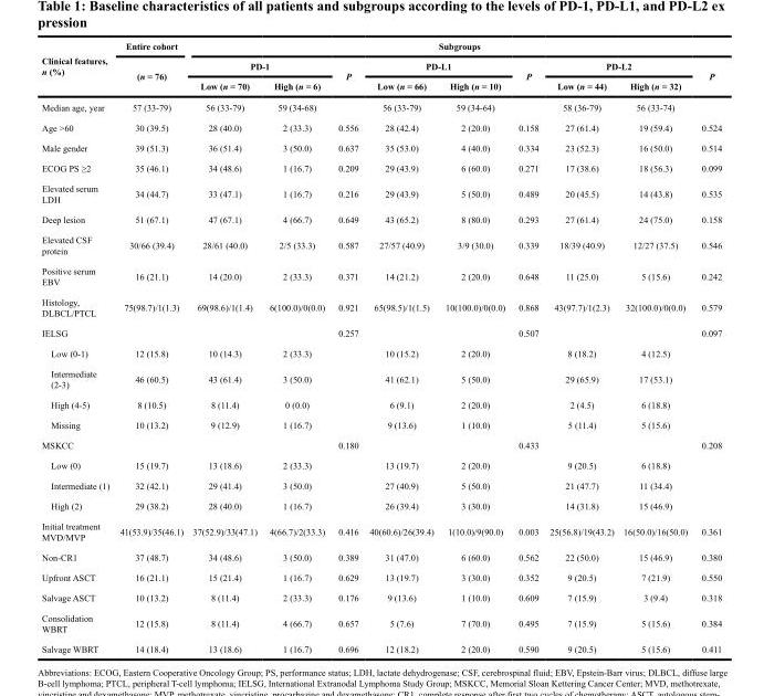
<table><thead><tr><td rowspan="3">Clinical features, n (%)</td><td rowspan="3">Entire cohort (n = 76)</td><td colspan="9">Subgroups</td></tr><tr><td colspan="2">PD-1</td><td rowspan="2">P</td><td colspan="2">PD-L1</td><td rowspan="2">P</td><td colspan="2">PD-L2</td><td rowspan="2">P</td></tr><tr><td>Low (n = 70)</td><td>High (n = 6)</td><td>Low (n = 66)</td><td>High (n = 10)</td><td>Low (n = 44)</td><td>High (n = 32)</td></tr></thead><tbody><tr><td>Median age, year</td><td>57 (33-79)</td><td>56 (33-79)</td><td>59 (34-68)</td><td></td><td>56 (33-79)</td><td>59 (34-64)</td><td></td><td>58 (36-79)</td><td>56 (33-74)</td><td></td></tr><tr><td>Age &gt;60</td><td>30 (39.5)</td><td>28 (40.0)</td><td>2 (33.3)</td><td>0.556</td><td>28 (42.4)</td><td>2 (20.0)</td><td>0.158</td><td>27 (61.4)</td><td>19 (59.4)</td><td>0.524</td></tr><tr><td>Male gender</td><td>39 (51.3)</td><td>36 (51.4)</td><td>3 (50.0)</td><td>0.637</td><td>35 (53.0)</td><td>4 (40.0)</td><td>0.334</td><td>23 (52.3)</td><td>16 (50.0)</td><td>0.514</td></tr><tr><td>ECOG PS ≥2</td><td>35 (46.1)</td><td>34 (48.6)</td><td>1 (16.7)</td><td>0.209</td><td>29 (43.9)</td><td>6 (60.0)</td><td>0.271</td><td>17 (38.6)</td><td>18 (56.3)</td><td>0.099</td></tr><tr><td>Elevated serum LDH</td><td>34 (44.7)</td><td>33 (47.1)</td><td>1 (16.7)</td><td>0.216</td><td>29 (43.9)</td><td>5 (50.0)</td><td>0.489</td><td>20 (45.5)</td><td>14 (43.8)</td><td>0.535</td></tr><tr><td>Deep lesion</td><td>51 (67.1)</td><td>47 (67.1)</td><td>4 (66.7)</td><td>0.649</td><td>43 (65.2)</td><td>8 (80.0)</td><td>0.293</td><td>27 (61.4)</td><td>24 (75.0)</td><td>0.158</td></tr><tr><td>Elevated CSF protein</td><td>30/66 (39.4)</td><td>28/61 (40.0)</td><td>2/5 (33.3)</td><td>0.587</td><td>27/57 (40.9)</td><td>3/9 (30.0)</td><td>0.339</td><td>18/39 (40.9)</td><td>12/27 (37.5)</td><td>0.546</td></tr><tr><td>Positive serum EBV</td><td>16 (21.1)</td><td>14 (20.0)</td><td>2 (33.3)</td><td>0.371</td><td>14 (21.2)</td><td>2 (20.0)</td><td>0.648</td><td>11 (25.0)</td><td>5 (15.6)</td><td>0.242</td></tr><tr><td>Histology, DLBCL/PTCL</td><td>75(98.7)/1(1.3)</td><td>69(98.6)/1(1.4)</td><td>6(100.0)/0(0.0)</td><td>0.921</td><td>65(98.5)/1(1.5)</td><td>10(100.0)/0(0.0)</td><td>0.868</td><td>43(97.7)/1(2.3)</td><td>32(100.0)/0(0.0)</td><td>0.579</td></tr><tr><td>IELSG</td><td></td><td></td><td></td><td>0.257</td><td></td><td></td><td>0.507</td><td></td><td></td><td>0.097</td></tr><tr><td>Low (0-1)</td><td>12 (15.8)</td><td>10 (14.3)</td><td>2 (33.3)</td><td></td><td>10 (15.2)</td><td>2 (20.0)</td><td></td><td>8 (18.2)</td><td>4 (12.5)</td><td></td></tr><tr><td>Intermediate (2-3)</td><td>46 (60.5)</td><td>43 (61.4)</td><td>3 (50.0)</td><td></td><td>41 (62.1)</td><td>5 (50.0)</td><td></td><td>29 (65.9)</td><td>17 (53.1)</td><td></td></tr><tr><td>High (4-5)</td><td>8 (10.5)</td><td>8 (11.4)</td><td>0 (0.0)</td><td></td><td>6 (9.1)</td><td>2 (20.0)</td><td></td><td>2 (4.5)</td><td>6 (18.8)</td><td></td></tr><tr><td>Missing</td><td>10 (13.2)</td><td>9 (12.9)</td><td>1 (16.7)</td><td></td><td>9 (13.6)</td><td>1 (10.0)</td><td></td><td>5 (11.4)</td><td>5 (15.6)</td><td></td></tr><tr><td>MSKCC</td><td></td><td></td><td></td><td>0.180</td><td></td><td></td><td>0.433</td><td></td><td></td><td>0.208</td></tr><tr><td>Low (0)</td><td>15 (19.7)</td><td>13 (18.6)</td><td>2 (33.3)</td><td></td><td>13 (19.7)</td><td>2 (20.0)</td><td></td><td>9 (20.5)</td><td>6 (18.8)</td><td></td></tr><tr><td>Intermediate (1)</td><td>32 (42.1)</td><td>29 (41.4)</td><td>3 (50.0)</td><td></td><td>27 (40.9)</td><td>5 (50.0)</td><td></td><td>21 (47.7)</td><td>11 (34.4)</td><td></td></tr><tr><td>High (2)</td><td>29 (38.2)</td><td>28 (40.0)</td><td>1 (16.7)</td><td></td><td>26 (39.4)</td><td>3 (30.0)</td><td></td><td>14 (31.8)</td><td>15 (46.9)</td><td></td></tr><tr><td>Initial treatment MVD/MVP</td><td>41(53.9)/35(46.1)</td><td>37(52.9)/33(47.1)</td><td>4(66.7)/2(33.3)</td><td>0.416</td><td>40(60.6)/26(39.4)</td><td>1(10.0)/9(90.0)</td><td>0.003</td><td>25(56.8)/19(43.2)</td><td>16(50.0)/16(50.0)</td><td>0.361</td></tr><tr><td>Non-CR1</td><td>37 (48.7)</td><td>34 (48.6)</td><td>3 (50.0)</td><td>0.389</td><td>31 (47.0)</td><td>6 (60.0)</td><td>0.562</td><td>22 (50.0)</td><td>15 (46.9)</td><td>0.380</td></tr><tr><td>Upfront ASCT</td><td>16 (21.1)</td><td>15 (21.4)</td><td>1 (16.7)</td><td>0.629</td><td>13 (19.7)</td><td>3 (30.0)</td><td>0.352</td><td>9 (20.5)</td><td>7 (21.9)</td><td>0.550</td></tr><tr><td>Salvage ASCT</td><td>10 (13.2)</td><td>8 (11.4)</td><td>2 (33.3)</td><td>0.176</td><td>9 (13.6)</td><td>1 (10.0)</td><td>0.609</td><td>7 (15.9)</td><td>3 (9.4)</td><td>0.318</td></tr><tr><td>Consolidation WBRT</td><td>12 (15.8)</td><td>8 (11.4)</td><td>4 (66.7)</td><td>0.657</td><td>5 (7.6)</td><td>7 (70.0)</td><td>0.495</td><td>7 (15.9)</td><td>5 (15.6)</td><td>0.384</td></tr><tr><td>Salvage WBRT</td><td>14 (18.4)</td><td>13 (18.6)</td><td>1 (16.7)</td><td>0.696</td><td>12 (18.2)</td><td>2 (20.0)</td><td>0.590</td><td>9 (20.5)</td><td>5 (15.6)</td><td>0.411</td></tr></tbody></table>